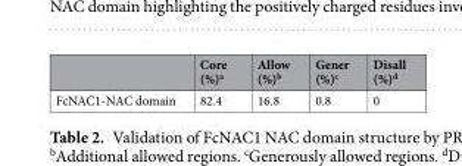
<table><thead><tr><td></td><td>Core (%)<sup>a</sup></td><td>Allow (%)<sup>b</sup></td><td>Gener (%)<sup>c</sup></td><td>Disall (%)<sup>d</sup></td></tr></thead><tbody><tr><td>FcNAC1-NAC domain</td><td>82.4</td><td>16.8</td><td>0.8</td><td>0</td></tr></tbody></table>